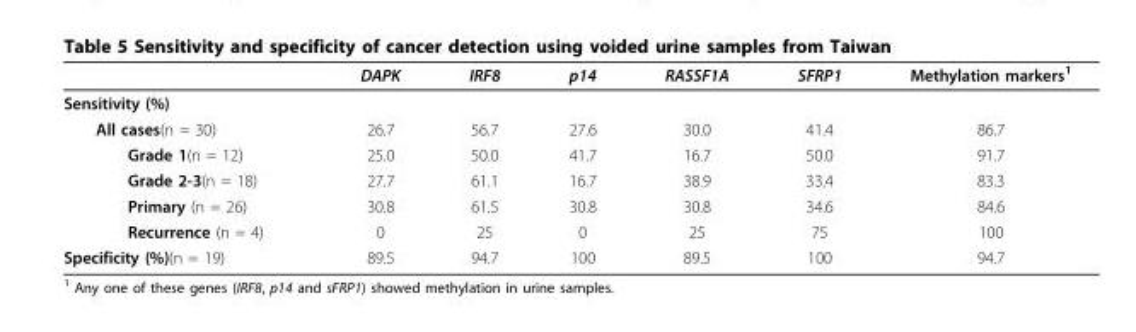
<table><thead><tr><td></td><td>DAPK</td><td>IRF8</td><td>p14</td><td>RASSF1A</td><td>SFRP1</td><td>Methylation markers<sup>1</sup></td></tr></thead><tbody><tr><td colspan="7">Sensitivity (%)</td></tr><tr><td>All cases(n = 30)</td><td>26.7</td><td>56.7</td><td>27.6</td><td>30.0</td><td>41.4</td><td>86.7</td></tr><tr><td>Grade 1(n = 12)</td><td>25.0</td><td>50.0</td><td>41.7</td><td>16.7</td><td>50.0</td><td>91.7</td></tr><tr><td>Grade 2-3(n = 18)</td><td>27.7</td><td>61.1</td><td>16.7</td><td>38.9</td><td>33.4</td><td>83.3</td></tr><tr><td>Primary (n = 26)</td><td>30.8</td><td>61.5</td><td>30.8</td><td>30.8</td><td>34.6</td><td>84.6</td></tr><tr><td>Recurrence (n = 4)</td><td>0</td><td>25</td><td>0</td><td>25</td><td>75</td><td>100</td></tr><tr><td>Specificity (%)(n = 19)</td><td>89.5</td><td>94.7</td><td>100</td><td>89.5</td><td>100</td><td>94.7</td></tr></tbody></table>